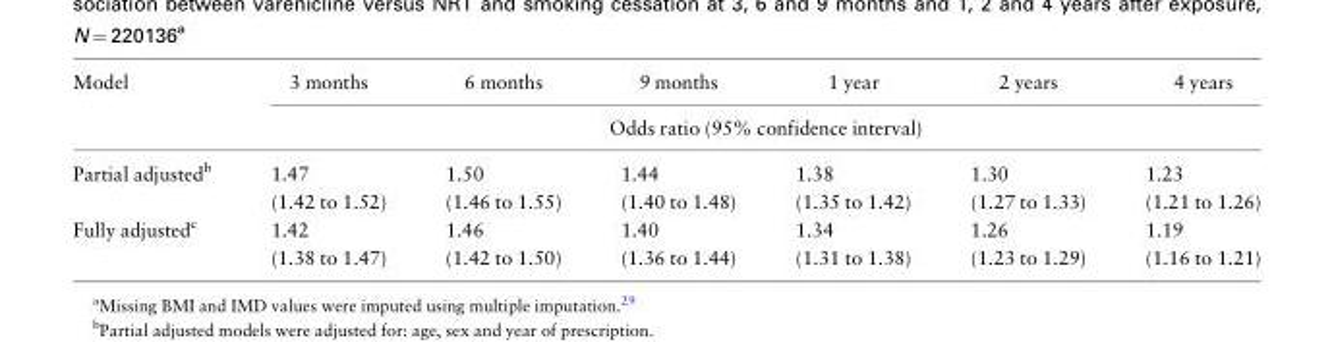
<table><thead><tr><td rowspan="2">Model</td><td>3 months</td><td>6 months</td><td>9 months</td><td>1 year</td><td>2 years</td><td>4 years</td></tr><tr><td colspan="6">Odds ratio (95% confidence interval)</td></tr></thead><tbody><tr><td rowspan="2">Partial adjusted<sup>b</sup></td><td>1.47</td><td>1.50</td><td>1.44</td><td>1.38</td><td>1.30</td><td>1.23</td></tr><tr><td>(1.42 to 1.52)</td><td>(1.46 to 1.55)</td><td>(1.40 to 1.48)</td><td>(1.35 to 1.42)</td><td>(1.27 to 1.33)</td><td>(1.21 to 1.26)</td></tr><tr><td rowspan="2">Fully adjusted<sup>c</sup></td><td>1.42</td><td>1.46</td><td>1.40</td><td>1.34</td><td>1.26</td><td>1.19</td></tr><tr><td>(1.38 to 1.47)</td><td>(1.42 to 1.50)</td><td>(1.36 to 1.44)</td><td>(1.31 to 1.38)</td><td>(1.23 to 1.29)</td><td>(1.16 to 1.21)</td></tr></tbody></table>